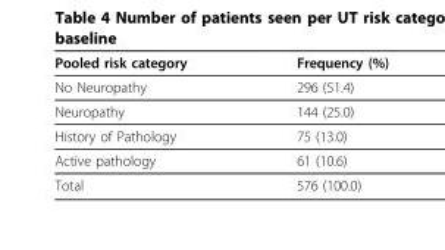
<table><thead><tr><td>Pooled risk category</td><td>Frequency (%)</td></tr></thead><tbody><tr><td>No Neuropathy</td><td>296 (51.4)</td></tr><tr><td>Neuropathy</td><td>144 (25.0)</td></tr><tr><td>History of Pathology</td><td>75 (13.0)</td></tr><tr><td>Active pathology</td><td>61 (10.6)</td></tr><tr><td>Total</td><td>576 (100.0)</td></tr></tbody></table>